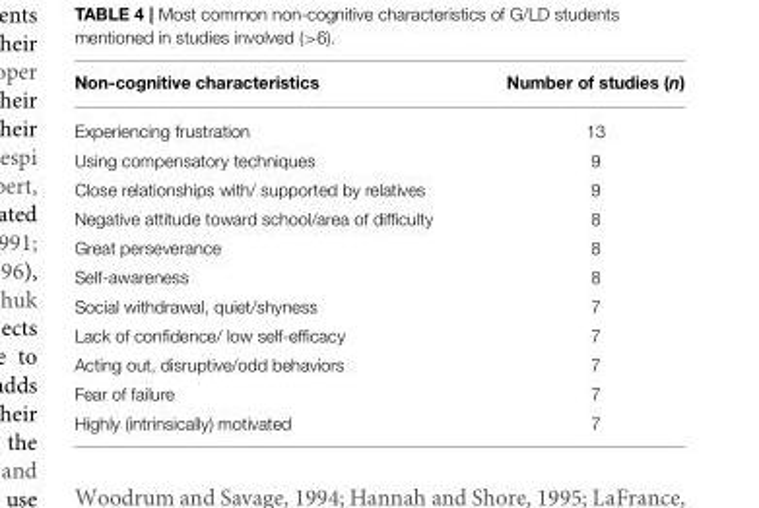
<table><thead><tr><td>Non-cognitive characteristics</td><td>Number of studies (n)</td></tr></thead><tbody><tr><td>Experiencing frustration</td><td>13</td></tr><tr><td>Using compensatory techniques</td><td>9</td></tr><tr><td>Close relationships with/ supported by relatives</td><td>9</td></tr><tr><td>Negative attitude toward school/area of difficulty</td><td>8</td></tr><tr><td>Great perseverance</td><td>8</td></tr><tr><td>Self-awareness</td><td>8</td></tr><tr><td>Social withdrawal, quiet/shyness</td><td>7</td></tr><tr><td>Lack of confidence/ low self-efficacy</td><td>7</td></tr><tr><td>Acting out, disruptive/odd behaviors</td><td>7</td></tr><tr><td>Fear of failure</td><td>7</td></tr><tr><td>Highly (intrinsically) motivated</td><td>7</td></tr></tbody></table>